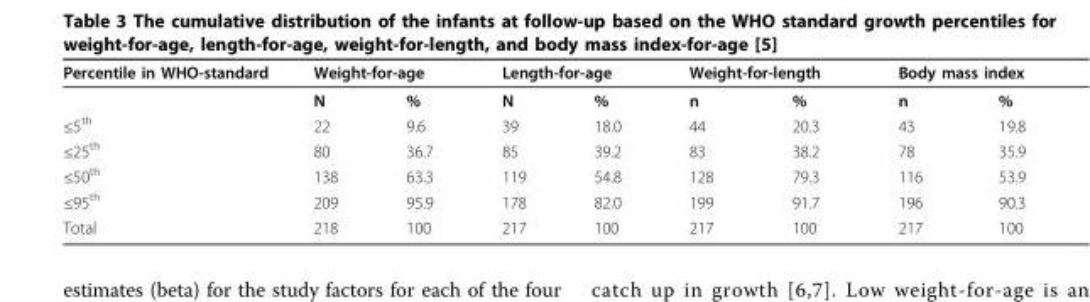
<table><thead><tr><td rowspan="2">Percentile in WHO-standard</td><td colspan="2">Weight-for-age</td><td colspan="2">Length-for-age</td><td colspan="2">Weight-for-length</td><td colspan="2">Body mass index</td></tr><tr><td>N</td><td>%</td><td>N</td><td>%</td><td>n</td><td>%</td><td>n</td><td>%</td></tr></thead><tbody><tr><td>≤5<sup>th</sup></td><td>22</td><td>9.6</td><td>39</td><td>18.0</td><td>44</td><td>20.3</td><td>43</td><td>19.8</td></tr><tr><td>≤25<sup>th</sup></td><td>80</td><td>36.7</td><td>85</td><td>39.2</td><td>83</td><td>38.2</td><td>78</td><td>35.9</td></tr><tr><td>≤50<sup>th</sup></td><td>138</td><td>63.3</td><td>119</td><td>54.8</td><td>128</td><td>79.3</td><td>116</td><td>53.9</td></tr><tr><td>≤95<sup>th</sup></td><td>209</td><td>95.9</td><td>178</td><td>82.0</td><td>199</td><td>91.7</td><td>196</td><td>90.3</td></tr><tr><td>Total</td><td>218</td><td>100</td><td>217</td><td>100</td><td>217</td><td>100</td><td>217</td><td>100</td></tr></tbody></table>